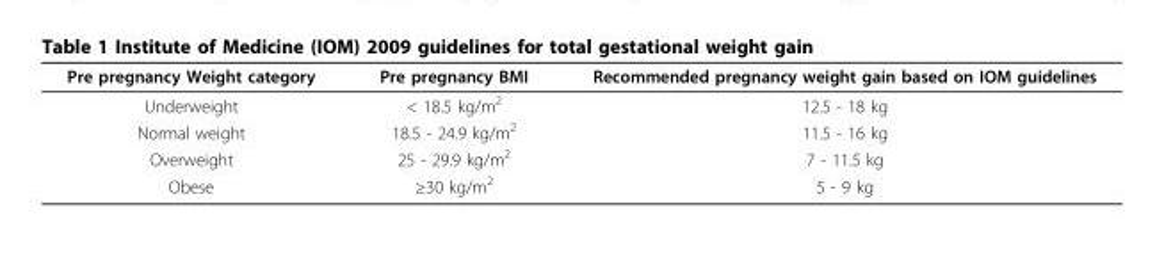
<table><thead><tr><td>Pre pregnancy Weight category</td><td>Pre pregnancy BMI</td><td>Recommended pregnancy weight gain based on IOM guidelines</td></tr></thead><tbody><tr><td>Underweight</td><td>&lt; 18.5 kg/m<sup>2</sup></td><td>12.5 - 18 kg</td></tr><tr><td>Normal weight</td><td>18.5 - 24.9 kg/m<sup>2</sup></td><td>11.5 - 16 kg</td></tr><tr><td>Overweight</td><td>25 - 29.9 kg/m<sup>2</sup></td><td>7 - 11.5 kg</td></tr><tr><td>Obese</td><td>≥30 kg/m<sup>2</sup></td><td>5 - 9 kg</td></tr></tbody></table>